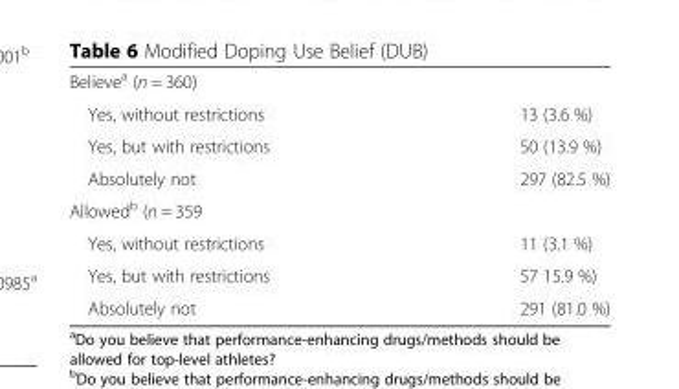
<table><tbody><tr><td colspan="2">Believe<sup>a</sup> (n = 360)</td></tr><tr><td>Yes, without restrictions</td><td>13 (3.6 %)</td></tr><tr><td>Yes, but with restrictions</td><td>50 (13.9 %)</td></tr><tr><td>Absolutely not</td><td>297 (82.5 %)</td></tr><tr><td colspan="2">Allowed<sup>b</sup> (n = 359</td></tr><tr><td>Yes, without restrictions</td><td>11 (3.1 %)</td></tr><tr><td>Yes, but with restrictions</td><td>57 15.9 %)</td></tr><tr><td>Absolutely not</td><td>291 (81.0 %)</td></tr></tbody></table>